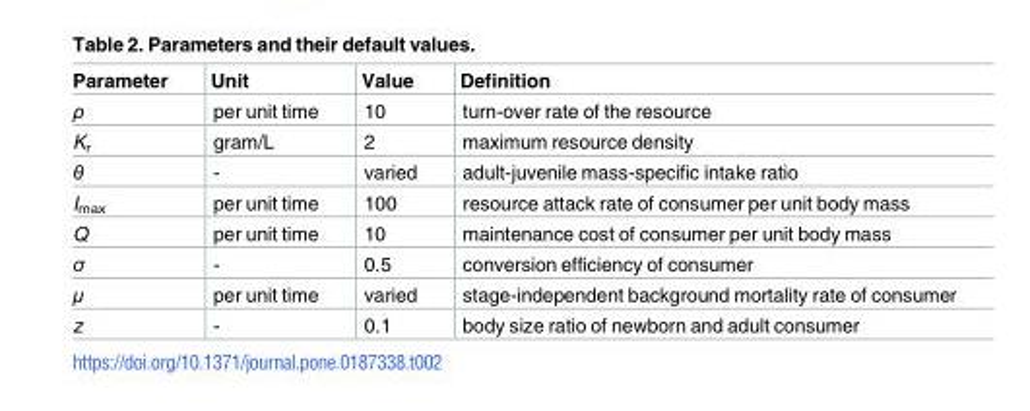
<table><thead><tr><td>Parameter</td><td>Unit</td><td>Value</td><td>Definition</td></tr></thead><tbody><tr><td>ρ</td><td>per unit time</td><td>10</td><td>turn-over rate of the resource</td></tr><tr><td>K<sub>r</sub></td><td>gram/L</td><td>2</td><td>maximum resource density</td></tr><tr><td>θ</td><td>-</td><td>varied</td><td>adult-juvenile mass-specific intake ratio</td></tr><tr><td>I<sub>max</sub></td><td>per unit time</td><td>100</td><td>resource attack rate of consumer per unit body mass</td></tr><tr><td>Q</td><td>per unit time</td><td>10</td><td>maintenance cost of consumer per unit body mass</td></tr><tr><td>σ</td><td>-</td><td>0.5</td><td>conversion efficiency of consumer</td></tr><tr><td>μ</td><td>per unit time</td><td>varied</td><td>stage-independent background mortality rate of consumer</td></tr><tr><td>z</td><td>-</td><td>0.1</td><td>body size ratio of newborn and adult consumer</td></tr></tbody></table>